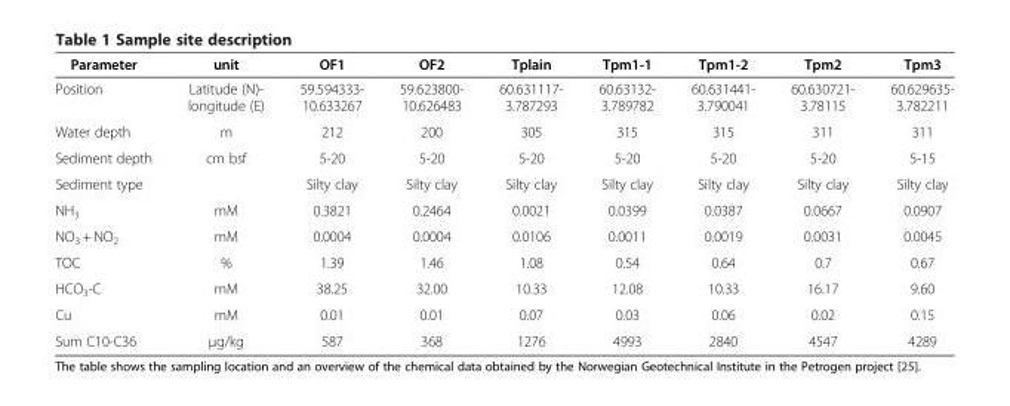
<table><thead><tr><td>Parameter</td><td>unit</td><td>OF1</td><td>OF2</td><td>Tplain</td><td>Tpm1-1</td><td>Tpm1-2</td><td>Tpm2</td><td>Tpm3</td></tr></thead><tbody><tr><td>Position</td><td>Latitude (N)- longitude (E)</td><td>59.594333- 10.633267</td><td>59.623800- 10.626483</td><td>60.631117- 3.787293</td><td>60.63132- 3.789782</td><td>60.631441- 3.790041</td><td>60.630721- 3.78115</td><td>60.629635- 3.782211</td></tr><tr><td>Water depth</td><td>m</td><td>212</td><td>200</td><td>305</td><td>315</td><td>315</td><td>311</td><td>311</td></tr><tr><td>Sediment depth</td><td>cm bsf</td><td>5-20</td><td>5-20</td><td>5-20</td><td>5-20</td><td>5-20</td><td>5-20</td><td>5-15</td></tr><tr><td>Sediment type</td><td></td><td>Silty clay</td><td>Silty clay</td><td>Silty clay</td><td>Silty clay</td><td>Silty clay</td><td>Silty clay</td><td>Silty clay</td></tr><tr><td>NH<sub>3</sub></td><td>mM</td><td>0.3821</td><td>0.2464</td><td>0.0021</td><td>0.0399</td><td>0.0387</td><td>0.0667</td><td>0.0907</td></tr><tr><td>NO<sub>3</sub> + NO<sub>2</sub></td><td>mM</td><td>0.0004</td><td>0.0004</td><td>0.0106</td><td>0.0011</td><td>0.0019</td><td>0.0031</td><td>0.0045</td></tr><tr><td>TOC</td><td>%</td><td>1.39</td><td>1.46</td><td>1.08</td><td>0.54</td><td>0.64</td><td>0.7</td><td>0.67</td></tr><tr><td>HCO<sub>3</sub>-C</td><td>mM</td><td>38.25</td><td>32.00</td><td>10.33</td><td>12.08</td><td>10.33</td><td>16.17</td><td>9.60</td></tr><tr><td>Cu</td><td>mM</td><td>0.01</td><td>0.01</td><td>0.07</td><td>0.03</td><td>0.06</td><td>0.02</td><td>0.15</td></tr><tr><td>Sum C10-C36</td><td>μg/kg</td><td>587</td><td>368</td><td>1276</td><td>4993</td><td>2840</td><td>4547</td><td>4289</td></tr></tbody></table>